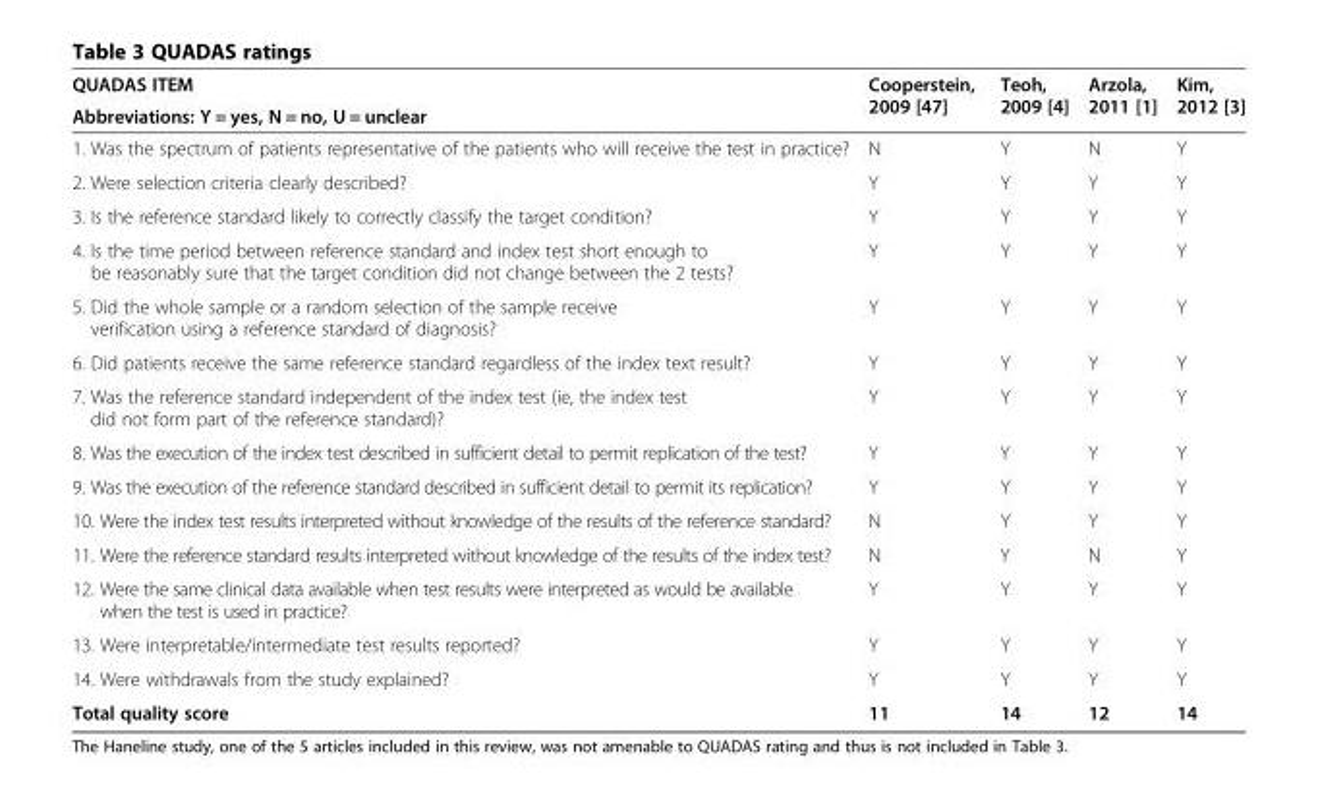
<table><thead><tr><td rowspan="2">QUADAS ITEM Abbreviations: Y = yes, N = no, U = unclear</td><td rowspan="2">Cooperstein, 2009 [47]</td><td rowspan="2">Teoh, 2009 [4]</td><td rowspan="2">Arzola, 2011 [1]</td><td rowspan="2">Kim, 2012 [3]</td></tr><tr></tr></thead><tbody><tr><td>1. Was the spectrum of patients representative of the patients who will receive the test in practice?</td><td>N</td><td>Y</td><td>N</td><td>Y</td></tr><tr><td>2. Were selection criteria clearly described?</td><td>Y</td><td>Y</td><td>Y</td><td>Y</td></tr><tr><td>3. Is the reference standard likely to correctly classify the target condition?</td><td>Y</td><td>Y</td><td>Y</td><td>Y</td></tr><tr><td>4. Is the time period between reference standard and index test short enough to be reasonably sure that the target condition did not change between the 2 tests?</td><td>Y</td><td>Y</td><td>Y</td><td>Y</td></tr><tr><td>5. Did the whole sample or a random selection of the sample receive verification using a reference standard of diagnosis?</td><td>Y</td><td>Y</td><td>Y</td><td>Y</td></tr><tr><td>6. Did patients receive the same reference standard regardless of the index text result?</td><td>Y</td><td>Y</td><td>Y</td><td>Y</td></tr><tr><td>7. Was the reference standard independent of the index test (ie, the index test did not form part of the reference standard)?</td><td>Y</td><td>Y</td><td>Y</td><td>Y</td></tr><tr><td>8. Was the execution of the index test described in sufficient detail to permit replication of the test?</td><td>Y</td><td>Y</td><td>Y</td><td>Y</td></tr><tr><td>9. Was the execution of the reference standard described in sufficient detail to permit its replication?</td><td>Y</td><td>Y</td><td>Y</td><td>Y</td></tr><tr><td>10. Were the index test results interpreted without knowledge of the results of the reference standard?</td><td>N</td><td>Y</td><td>Y</td><td>Y</td></tr><tr><td>11. Were the reference standard results interpreted without knowledge of the results of the index test?</td><td>N</td><td>Y</td><td>N</td><td>Y</td></tr><tr><td>12. Were the same clinical data available when test results were interpreted as would be available when the test is used in practice?</td><td>Y</td><td>Y</td><td>Y</td><td>Y</td></tr><tr><td>13. Were interpretable/intermediate test results reported?</td><td>Y</td><td>Y</td><td>Y</td><td>Y</td></tr><tr><td>14. Were withdrawals from the study explained?</td><td>Y</td><td>Y</td><td>Y</td><td>Y</td></tr><tr><td>Total quality score</td><td>11</td><td>14</td><td>12</td><td>14</td></tr></tbody></table>